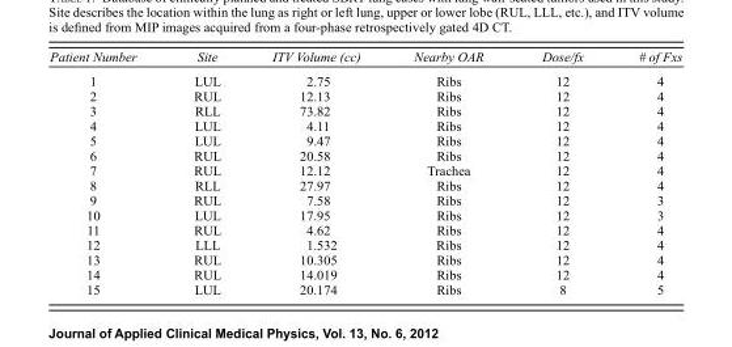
<table><thead><tr><td>Patient Number</td><td>Site</td><td>ITV Volume (cc)</td><td>Nearby OAR</td><td>Dose/fx</td><td># of Fxs</td></tr></thead><tbody><tr><td>1</td><td>LUL</td><td>2.75</td><td>Ribs</td><td>12</td><td>4</td></tr><tr><td>2</td><td>RUL</td><td>12.13</td><td>Ribs</td><td>12</td><td>4</td></tr><tr><td>3</td><td>RLL</td><td>73.82</td><td>Ribs</td><td>12</td><td>4</td></tr><tr><td>4</td><td>LUL</td><td>4.11</td><td>Ribs</td><td>12</td><td>4</td></tr><tr><td>5</td><td>LUL</td><td>9.47</td><td>Ribs</td><td>12</td><td>4</td></tr><tr><td>6</td><td>RUL</td><td>20.58</td><td>Ribs</td><td>12</td><td>4</td></tr><tr><td>7</td><td>RUL</td><td>12.12</td><td>Trachea</td><td>12</td><td>4</td></tr><tr><td>8</td><td>RLL</td><td>27.97</td><td>Ribs</td><td>12</td><td>4</td></tr><tr><td>9</td><td>RUL</td><td>7.58</td><td>Ribs</td><td>12</td><td>3</td></tr><tr><td>10</td><td>LUL</td><td>17.95</td><td>Ribs</td><td>12</td><td>3</td></tr><tr><td>11</td><td>RUL</td><td>4.62</td><td>Ribs</td><td>12</td><td>4</td></tr><tr><td>12</td><td>LLL</td><td>1.532</td><td>Ribs</td><td>12</td><td>4</td></tr><tr><td>13</td><td>RUL</td><td>10.305</td><td>Ribs</td><td>12</td><td>4</td></tr><tr><td>14</td><td>RUL</td><td>14.019</td><td>Ribs</td><td>12</td><td>4</td></tr><tr><td>15</td><td>LUL</td><td>20.174</td><td>Ribs</td><td>8</td><td>5</td></tr></tbody></table>